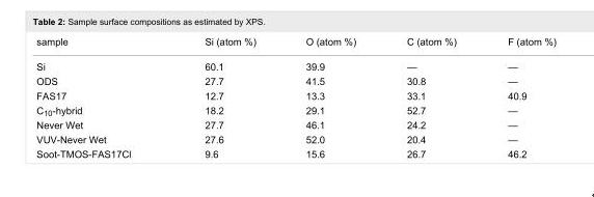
<table><tbody><tr><td>sample</td><td>Si (atom %)</td><td>O (atom %)</td><td>C (atom %)</td><td>F (atom %)</td></tr><tr><td>Si</td><td>60.1</td><td>39.9</td><td>—</td><td>—</td></tr><tr><td>ODS</td><td>27.7</td><td>41.5</td><td>30.8</td><td>—</td></tr><tr><td>FAS17</td><td>12.7</td><td>13.3</td><td>33.1</td><td>40.9</td></tr><tr><td>C<sub>10</sub>-hybrid</td><td>18.2</td><td>29.1</td><td>52.7</td><td>—</td></tr><tr><td>Never Wet</td><td>27.7</td><td>46.1</td><td>24.2</td><td>—</td></tr><tr><td>VUV-Never Wet</td><td>27.6</td><td>52.0</td><td>20.4</td><td>—</td></tr><tr><td>Soot-TMOS-FAS17Cl</td><td>9.6</td><td>15.6</td><td>26.7</td><td>46.2</td></tr></tbody></table>